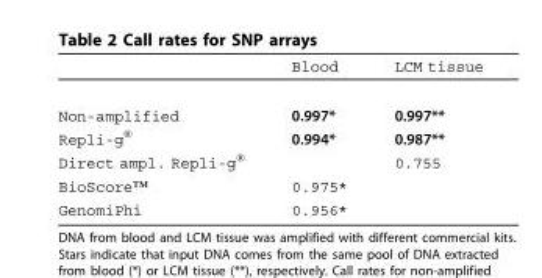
<table><thead><tr><td></td><td>Blood</td><td>LCM tissue</td></tr></thead><tbody><tr><td>Non-amplified</td><td>0.997*</td><td>0.997**</td></tr><tr><td>Repli-g<sup>®</sup></td><td>0.994*</td><td>0.987**</td></tr><tr><td>Direct ampl. Repli-g<sup>®</sup></td><td></td><td>0.755</td></tr><tr><td>BioScore™</td><td>0.975*</td><td></td></tr><tr><td>GenomiPhi</td><td>0.956*</td><td></td></tr></tbody></table>